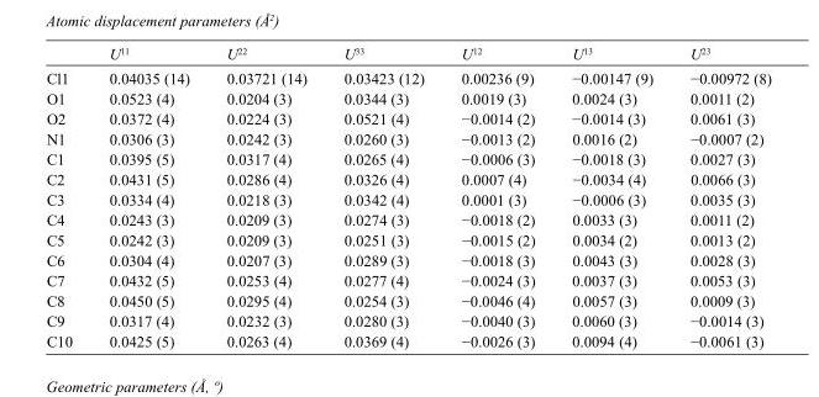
<table><thead><tr><td></td><td>U<sup>11</sup></td><td>U<sup>22</sup></td><td>U<sup>33</sup></td><td>U<sup>12</sup></td><td>U<sup>13</sup></td><td>U<sup>23</sup></td></tr></thead><tbody><tr><td>Cl1</td><td>0.04035 (14)</td><td>0.03721 (14)</td><td>0.03423 (12)</td><td>0.00236 (9)</td><td>−0.00147 (9)</td><td>−0.00972 (8)</td></tr><tr><td>O1</td><td>0.0523 (4)</td><td>0.0204 (3)</td><td>0.0344 (3)</td><td>0.0019 (3)</td><td>0.0024 (3)</td><td>0.0011 (2)</td></tr><tr><td>O2</td><td>0.0372 (4)</td><td>0.0224 (3)</td><td>0.0521 (4)</td><td>−0.0014 (2)</td><td>−0.0014 (3)</td><td>0.0061 (3)</td></tr><tr><td>N1</td><td>0.0306 (3)</td><td>0.0242 (3)</td><td>0.0260 (3)</td><td>−0.0013 (2)</td><td>0.0016 (2)</td><td>−0.0007 (2)</td></tr><tr><td>C1</td><td>0.0395 (5)</td><td>0.0317 (4)</td><td>0.0265 (4)</td><td>−0.0006 (3)</td><td>−0.0018 (3)</td><td>0.0027 (3)</td></tr><tr><td>C2</td><td>0.0431 (5)</td><td>0.0286 (4)</td><td>0.0326 (4)</td><td>0.0007 (4)</td><td>−0.0034 (4)</td><td>0.0066 (3)</td></tr><tr><td>C3</td><td>0.0334 (4)</td><td>0.0218 (3)</td><td>0.0342 (4)</td><td>0.0001 (3)</td><td>−0.0006 (3)</td><td>0.0035 (3)</td></tr><tr><td>C4</td><td>0.0243 (3)</td><td>0.0209 (3)</td><td>0.0274 (3)</td><td>−0.0018 (2)</td><td>0.0033 (3)</td><td>0.0011 (2)</td></tr><tr><td>C5</td><td>0.0242 (3)</td><td>0.0209 (3)</td><td>0.0251 (3)</td><td>−0.0015 (2)</td><td>0.0034 (2)</td><td>0.0013 (2)</td></tr><tr><td>C6</td><td>0.0304 (4)</td><td>0.0207 (3)</td><td>0.0289 (3)</td><td>−0.0018 (3)</td><td>0.0043 (3)</td><td>0.0028 (3)</td></tr><tr><td>C7</td><td>0.0432 (5)</td><td>0.0253 (4)</td><td>0.0277 (4)</td><td>−0.0024 (3)</td><td>0.0037 (3)</td><td>0.0053 (3)</td></tr><tr><td>C8</td><td>0.0450 (5)</td><td>0.0295 (4)</td><td>0.0254 (3)</td><td>−0.0046 (4)</td><td>0.0057 (3)</td><td>0.0009 (3)</td></tr><tr><td>C9</td><td>0.0317 (4)</td><td>0.0232 (3)</td><td>0.0280 (3)</td><td>−0.0040 (3)</td><td>0.0060 (3)</td><td>−0.0014 (3)</td></tr><tr><td>C10</td><td>0.0425 (5)</td><td>0.0263 (4)</td><td>0.0369 (4)</td><td>−0.0026 (3)</td><td>0.0094 (4)</td><td>−0.0061 (3)</td></tr></tbody></table>